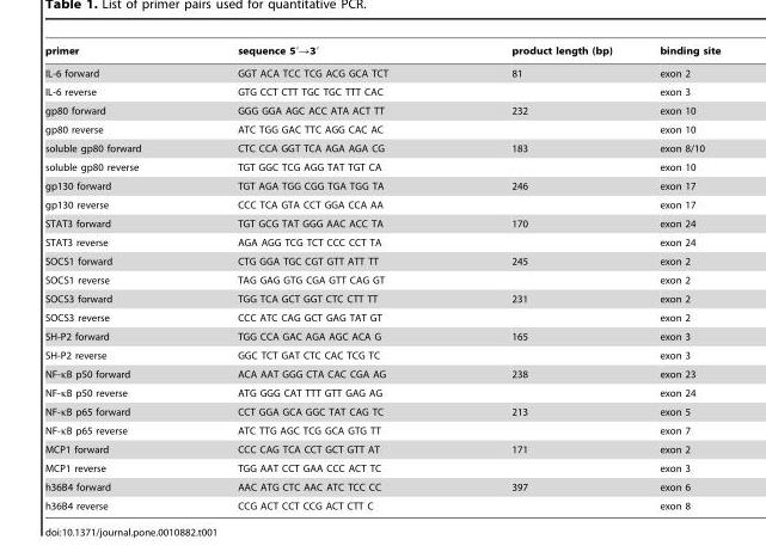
<table><thead><tr><td>primer</td><td>sequence 5′→3′</td><td>product length (bp)</td><td>binding site</td></tr></thead><tbody><tr><td>IL-6 forward</td><td>GGT ACA TCC TCG ACG GCA TCT</td><td>81</td><td>exon 2</td></tr><tr><td>IL-6 reverse</td><td>GTG CCT CTT TGC TGC TTT CAC</td><td></td><td>exon 3</td></tr><tr><td>gp80 forward</td><td>GGG GGA AGC ACC ATA ACT TT</td><td>232</td><td>exon 10</td></tr><tr><td>gp80 reverse</td><td>ATC TGG GAC TTC AGG CAC AC</td><td></td><td>exon 10</td></tr><tr><td>soluble gp80 forward</td><td>CTC CCA GGT TCA AGA AGA CG</td><td>183</td><td>exon 8/10</td></tr><tr><td>soluble gp80 reverse</td><td>TGT GGC TCG AGG TAT TGT CA</td><td></td><td>exon 10</td></tr><tr><td>gp130 forward</td><td>TGT AGA TGG CGG TGA TGG TA</td><td>246</td><td>exon 17</td></tr><tr><td>gp130 reverse</td><td>CCC TCA GTA CCT GGA CCA AA</td><td></td><td>exon 17</td></tr><tr><td>STAT3 forward</td><td>TGT GCG TAT GGG AAC ACC TA</td><td>170</td><td>exon 24</td></tr><tr><td>STAT3 reverse</td><td>AGA AGG TCG TCT CCC CCT TA</td><td></td><td>exon 24</td></tr><tr><td>SOCS1 forward</td><td>CTG GGA TGC CGT GTT ATT TT</td><td>245</td><td>exon 2</td></tr><tr><td>SOCS1 reverse</td><td>TAG GAG GTG CGA GTT CAG GT</td><td></td><td>exon 2</td></tr><tr><td>SOCS3 forward</td><td>TGG TCA GCT GGT CTC CTT TT</td><td>231</td><td>exon 2</td></tr><tr><td>SOCS3 reverse</td><td>CCC ATC CAG GCT GAG TAT GT</td><td></td><td>exon 2</td></tr><tr><td>SH-P2 forward</td><td>TGG CCA GAC AGA AGC ACA G</td><td>165</td><td>exon 3</td></tr><tr><td>SH-P2 reverse</td><td>GGC TCT GAT CTC CAC TCG TC</td><td></td><td>exon 3</td></tr><tr><td>NF-κB p50 forward</td><td>ACA AAT GGG CTA CAC CGA AG</td><td>238</td><td>exon 23</td></tr><tr><td>NF-κB p50 reverse</td><td>ATG GGG CAT TTT GTT GAG AG</td><td></td><td>exon 24</td></tr><tr><td>NF-κB p65 forward</td><td>CCT GGA GCA GGC TAT CAG TC</td><td>213</td><td>exon 5</td></tr><tr><td>NF-κB p65 reverse</td><td>ATC TTG AGC TCG GCA GTG TT</td><td></td><td>exon 7</td></tr><tr><td>MCP1 forward</td><td>CCC CAG TCA CCT GCT GTT AT</td><td>171</td><td>exon 2</td></tr><tr><td>MCP1 reverse</td><td>TGG AAT CCT GAA CCC ACT TC</td><td></td><td>exon 3</td></tr><tr><td>h36B4 forward</td><td>AAC ATG CTC AAC ATC TCC CC</td><td>397</td><td>exon 6</td></tr><tr><td>h36B4 reverse</td><td>CCG ACT CCT CCG ACT CTT C</td><td></td><td>exon 8</td></tr></tbody></table>